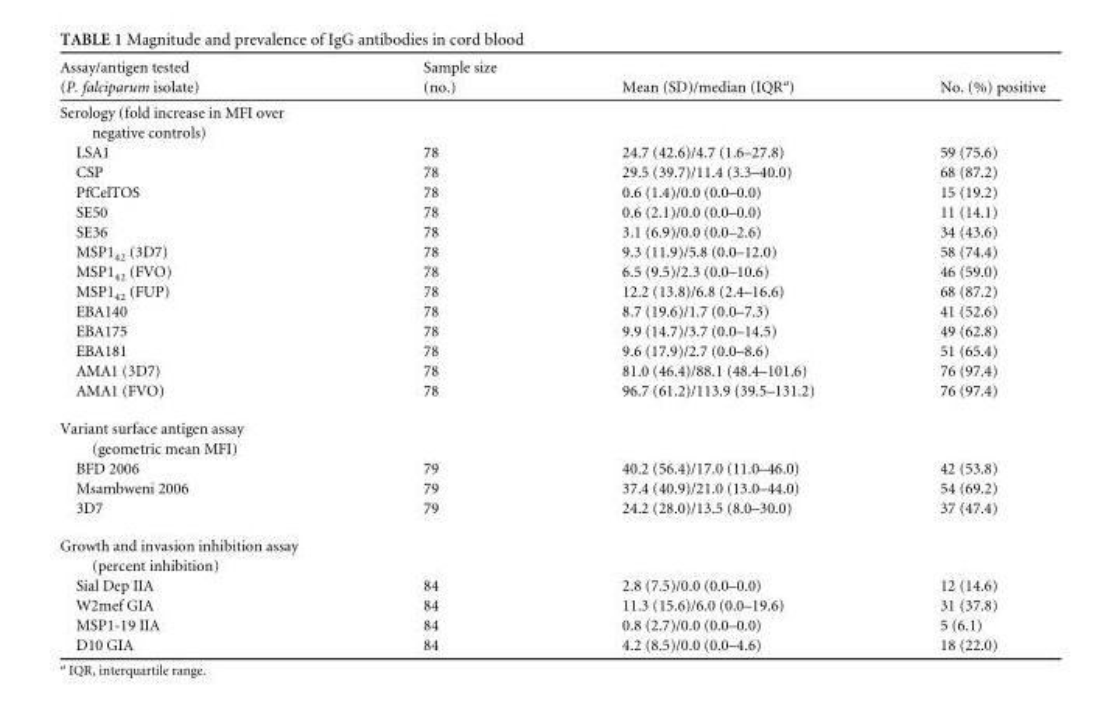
<table><thead><tr><td>Assay/antigen tested (P. falciparum isolate)</td><td>Sample size (no.)</td><td>Mean (SD)/median (IQR<sup>a</sup>)</td><td>No. (%) positive</td></tr></thead><tbody><tr><td colspan="4">Serology (fold increase in MFI over negative controls)</td></tr><tr><td>LSA1</td><td>78</td><td>24.7 (42.6)/4.7 (1.6–27.8)</td><td>59 (75.6)</td></tr><tr><td>CSP</td><td>78</td><td>29.5 (39.7)/11.4 (3.3–40.0)</td><td>68 (87.2)</td></tr><tr><td>PfCelTOS</td><td>78</td><td>0.6 (1.4)/0.0 (0.0–0.0)</td><td>15 (19.2)</td></tr><tr><td>SE50</td><td>78</td><td>0.6 (2.1)/0.0 (0.0–0.0)</td><td>11 (14.1)</td></tr><tr><td>SE36</td><td>78</td><td>3.1 (6.9)/0.0 (0.0–2.6)</td><td>34 (43.6)</td></tr><tr><td>MSP1<sub>42</sub> (3D7)</td><td>78</td><td>9.3 (11.9)/5.8 (0.0–12.0)</td><td>58 (74.4)</td></tr><tr><td>MSP1<sub>42</sub> (FVO)</td><td>78</td><td>6.5 (9.5)/2.3 (0.0–10.6)</td><td>46 (59.0)</td></tr><tr><td>MSP1<sub>42</sub> (FUP)</td><td>78</td><td>12.2 (13.8)/6.8 (2.4–16.6)</td><td>68 (87.2)</td></tr><tr><td>EBA140</td><td>78</td><td>8.7 (19.6)/1.7 (0.0–7.3)</td><td>41 (52.6)</td></tr><tr><td>EBA175</td><td>78</td><td>9.9 (14.7)/3.7 (0.0–14.5)</td><td>49 (62.8)</td></tr><tr><td>EBA181</td><td>78</td><td>9.6 (17.9)/2.7 (0.0–8.6)</td><td>51 (65.4)</td></tr><tr><td>AMA1 (3D7)</td><td>78</td><td>81.0 (46.4)/88.1 (48.4–101.6)</td><td>76 (97.4)</td></tr><tr><td>AMA1 (FVO)</td><td>78</td><td>96.7 (61.2)/113.9 (39.5–131.2)</td><td>76 (97.4)</td></tr><tr><td colspan="4">Variant surface antigen assay (geometric mean MFI)</td></tr><tr><td>BFD 2006</td><td>79</td><td>40.2 (56.4)/17.0 (11.0–46.0)</td><td>42 (53.8)</td></tr><tr><td>Msambweni 2006</td><td>79</td><td>37.4 (40.9)/21.0 (13.0–44.0)</td><td>54 (69.2)</td></tr><tr><td>3D7</td><td>79</td><td>24.2 (28.0)/13.5 (8.0–30.0)</td><td>37 (47.4)</td></tr><tr><td colspan="4">Growth and invasion inhibition assay (percent inhibition)</td></tr><tr><td>Sial Dep IIA</td><td>84</td><td>2.8 (7.5)/0.0 (0.0–0.0)</td><td>12 (14.6)</td></tr><tr><td>W2mef GIA</td><td>84</td><td>11.3 (15.6)/6.0 (0.0–19.6)</td><td>31 (37.8)</td></tr><tr><td>MSP1-19 IIA</td><td>84</td><td>0.8 (2.7)/0.0 (0.0–0.0)</td><td>5 (6.1)</td></tr><tr><td>D10 GIA</td><td>84</td><td>4.2 (8.5)/0.0 (0.0–4.6)</td><td>18 (22.0)</td></tr></tbody></table>